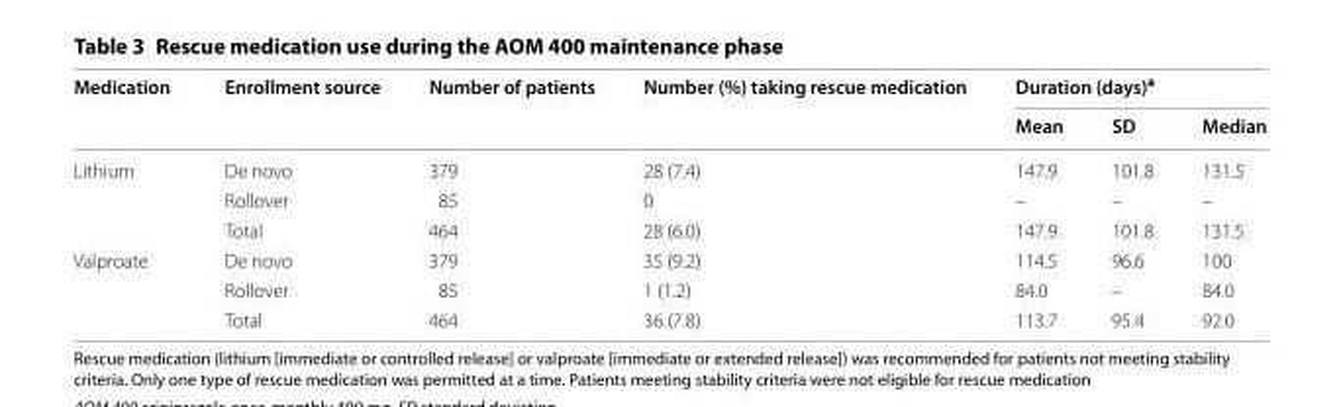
<table><thead><tr><td rowspan="2">Medication</td><td rowspan="2">Enrollment source</td><td rowspan="2">Number of patients</td><td rowspan="2">Number (%) taking rescue medication</td><td colspan="3">Duration (days)<sup>a</sup></td></tr><tr><td>Mean</td><td>SD</td><td>Median</td></tr></thead><tbody><tr><td rowspan="3">Lithium</td><td>De novo</td><td>379</td><td>28 (7.4)</td><td>147.9</td><td>101.8</td><td>131.5</td></tr><tr><td>Rollover</td><td>85</td><td>0</td><td>–</td><td>–</td><td>–</td></tr><tr><td>Total</td><td>464</td><td>28 (6.0)</td><td>147.9</td><td>101.8</td><td>131.5</td></tr><tr><td rowspan="3">Valproate</td><td>De novo</td><td>379</td><td>35 (9.2)</td><td>114.5</td><td>96.6</td><td>100</td></tr><tr><td>Rollover</td><td>85</td><td>1 (1.2)</td><td>84.0</td><td>–</td><td>84.0</td></tr><tr><td>Total</td><td>464</td><td>36 (7.8)</td><td>113.7</td><td>95.4</td><td>92.0</td></tr></tbody></table>